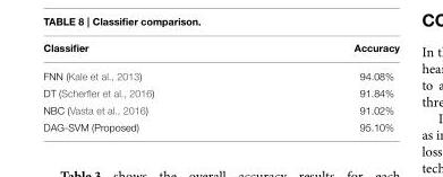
<table><thead><tr><td>Classifier</td><td>Accuracy</td></tr></thead><tbody><tr><td>FNN (Kale et al., 2013)</td><td>94.08%</td></tr><tr><td>DT (Scherfler et al., 2016)</td><td>91.84%</td></tr><tr><td>NBC (Vasta et al., 2016)</td><td>91.02%</td></tr><tr><td>DAG-SVM (Proposed)</td><td>95.10%</td></tr></tbody></table>